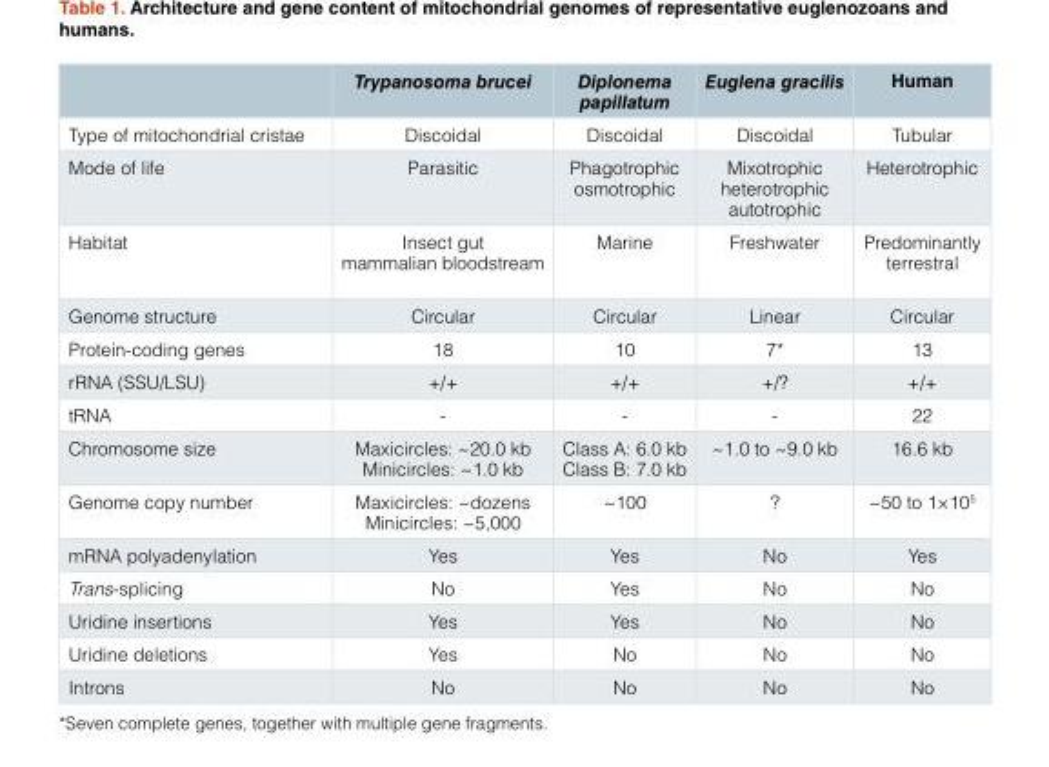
<table><thead><tr><td></td><td>Trypanosoma brucei</td><td>Diplonema papillatum</td><td>Euglena gracilis</td><td>Human</td></tr></thead><tbody><tr><td>Type of mitochondrial cristae</td><td>Discoidal</td><td>Discoidal</td><td>Discoidal</td><td>Tubular</td></tr><tr><td>Mode of life</td><td>Parasitic</td><td>Phagotrophic osmotrophic</td><td>Mixotrophic heterotrophic autotrophic</td><td>Heterotrophic</td></tr><tr><td>Habitat</td><td>Insect gut mammalian bloodstream</td><td>Marine</td><td>Freshwater</td><td>Predominantly terrestral</td></tr><tr><td>Genome structure</td><td>Circular</td><td>Circular</td><td>Linear</td><td>Circular</td></tr><tr><td>Protein-coding genes</td><td>18</td><td>10</td><td>7*</td><td>13</td></tr><tr><td>rRNA (SSU/LSU)</td><td>+/+</td><td>+/+</td><td>+/?</td><td>+/+</td></tr><tr><td>tRNA</td><td>-</td><td>-</td><td>-</td><td>22</td></tr><tr><td>Chromosome size</td><td>Maxicircles: ~20.0 kb Minicircles: ~1.0 kb</td><td>Class A: 6.0 kb Class B: 7.0 kb</td><td>~1.0 to ~9.0 kb</td><td>16.6 kb</td></tr><tr><td>Genome copy number</td><td>Maxicircles: ~dozens Minicircles: ~5,000</td><td>~100</td><td>?</td><td>~50 to 1×10<sup>5</sup></td></tr><tr><td>mRNA polyadenylation</td><td>Yes</td><td>Yes</td><td>No</td><td>Yes</td></tr><tr><td>Trans-splicing</td><td>No</td><td>Yes</td><td>No</td><td>No</td></tr><tr><td>Uridine insertions</td><td>Yes</td><td>Yes</td><td>No</td><td>No</td></tr><tr><td>Uridine deletions</td><td>Yes</td><td>No</td><td>No</td><td>No</td></tr><tr><td>Introns</td><td>No</td><td>No</td><td>No</td><td>No</td></tr></tbody></table>